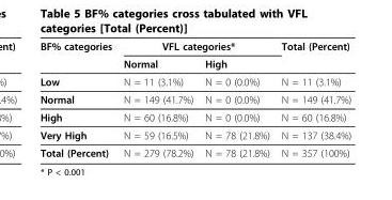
<table><thead><tr><td rowspan="2">BF% categories</td><td colspan="2">VFL categories*</td><td rowspan="2">Total (Percent)</td></tr><tr><td>Normal</td><td>High</td></tr></thead><tbody><tr><td>Low</td><td>N = 11 (3.1%)</td><td>N = 0 (0.0%)</td><td>N = 11 (3.1%)</td></tr><tr><td>Normal</td><td>N = 149 (41.7%)</td><td>N = 0 (0.0%)</td><td>N = 149 (41.7%)</td></tr><tr><td>High</td><td>N = 60 (16.8%)</td><td>N = 0 (0.0%)</td><td>N = 60 (16.8%)</td></tr><tr><td>Very High</td><td>N = 59 (16.5%)</td><td>N = 78 (21.8%)</td><td>N = 137 (38.4%)</td></tr><tr><td>Total (Percent)</td><td>N = 279 (78.2%)</td><td>N = 78 (21.8%)</td><td>N = 357 (100%)</td></tr></tbody></table>